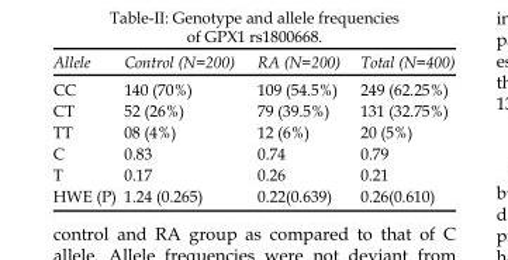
<table><thead><tr><td>Allele</td><td>Control (N=200)</td><td>RA (N=200)</td><td>Total (N=400)</td></tr></thead><tbody><tr><td>CC</td><td>140 (70%)</td><td>109 (54.5%)</td><td>249 (62.25%)</td></tr><tr><td>CT</td><td>52 (26%)</td><td>79 (39.5%)</td><td>131 (32.75%)</td></tr><tr><td>TT</td><td>08 (4%)</td><td>12 (6%)</td><td>20 (5%)</td></tr><tr><td>C</td><td>0.83</td><td>0.74</td><td>0.79</td></tr><tr><td>T</td><td>0.17</td><td>0.26</td><td>0.21</td></tr><tr><td>HWE (P)</td><td>1.24 (0.265)</td><td>0.22(0.639)</td><td>0.26(0.610)</td></tr></tbody></table>